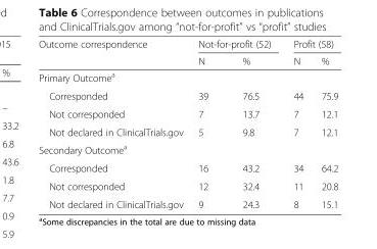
<table><thead><tr><td rowspan="2">Outcome correspondence</td><td colspan="2">Not-for-profit (52)</td><td colspan="2">Profit (58)</td></tr><tr><td>N</td><td>%</td><td>N</td><td>%</td></tr></thead><tbody><tr><td colspan="5">Primary Outcome<sup>a</sup></td></tr><tr><td>Corresponded</td><td>39</td><td>76.5</td><td>44</td><td>75.9</td></tr><tr><td>Not corresponded</td><td>7</td><td>13.7</td><td>7</td><td>12.1</td></tr><tr><td>Not declared in ClinicalTrials.gov</td><td>5</td><td>9.8</td><td>7</td><td>12.1</td></tr><tr><td colspan="5">Secondary Outcome<sup>a</sup></td></tr><tr><td>Corresponded</td><td>16</td><td>43.2</td><td>34</td><td>64.2</td></tr><tr><td>Not corresponded</td><td>12</td><td>32.4</td><td>11</td><td>20.8</td></tr><tr><td>Not declared in ClinicalTrials.gov</td><td>9</td><td>24.3</td><td>8</td><td>15.1</td></tr></tbody></table>